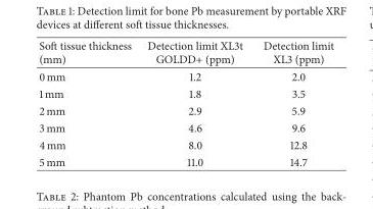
<table><thead><tr><td>Soft tissue thickness (mm)</td><td>Detection limit XL3t GOLDD+ (ppm)</td><td>Detection limit XL3 (ppm)</td></tr></thead><tbody><tr><td>0 mm</td><td>1.2</td><td>2.0</td></tr><tr><td>1 mm</td><td>1.8</td><td>3.5</td></tr><tr><td>2 mm</td><td>2.9</td><td>5.9</td></tr><tr><td>3 mm</td><td>4.6</td><td>9.6</td></tr><tr><td>4 mm</td><td>8.0</td><td>12.8</td></tr><tr><td>5 mm</td><td>11.0</td><td>14.7</td></tr></tbody></table>